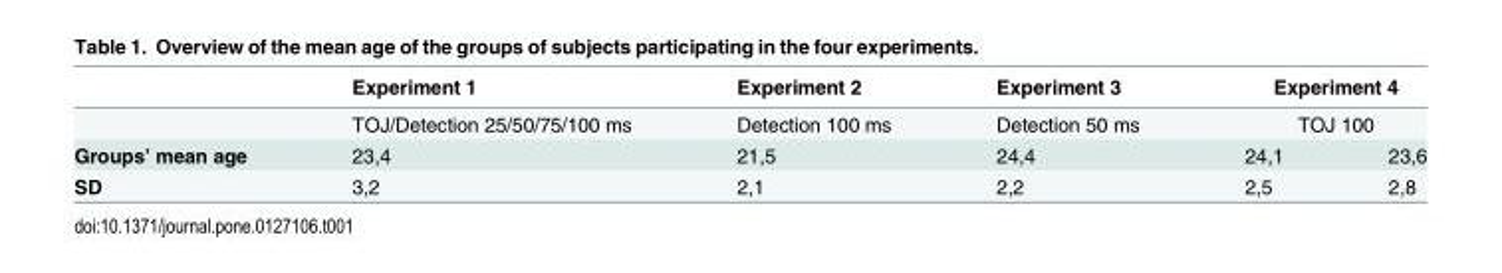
<table><thead><tr><td rowspan="3">Groups’ mean age</td><td rowspan="3">Experiment 1 TOJ/Detection 25/50/75/100 ms 23,4</td><td rowspan="3">Experiment 2 Detection 100 ms 21,5</td><td rowspan="3">Experiment 3 Detection 50 ms 24,4</td><td rowspan="2" colspan="2">Experiment 4 TOJ 100</td></tr><tr></tr><tr><td>24,1</td><td>23,6</td></tr></thead><tbody><tr><td>SD</td><td>3,2</td><td>2,1</td><td>2,2</td><td>2,5</td><td>2,8</td></tr></tbody></table>